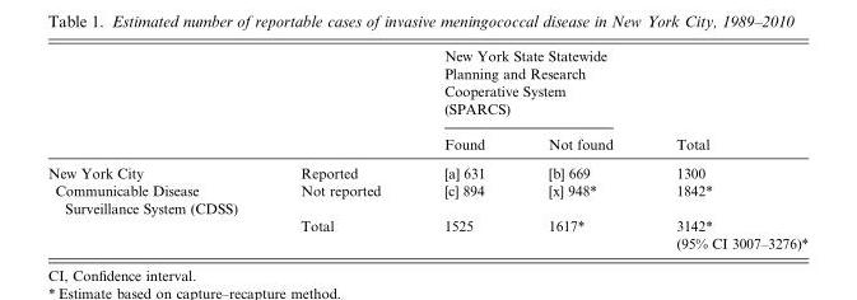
<table><thead><tr><td rowspan="2"></td><td rowspan="2"></td><td colspan="2">New York State Statewide Planning and Research Cooperative System (SPARCS)</td><td rowspan="2">Total</td></tr><tr><td>Found</td><td>Not found</td></tr></thead><tbody><tr><td rowspan="3">New York City Communicable Disease Surveillance System (CDSS)</td><td>Reported</td><td>[a] 631</td><td>[b] 669</td><td>1300</td></tr><tr><td>Not reported</td><td>[c] 894</td><td>[x] 948*</td><td>1842*</td></tr><tr><td>Total</td><td>1525</td><td>1617*</td><td>3142* (95% CI 3007–3276)*</td></tr></tbody></table>